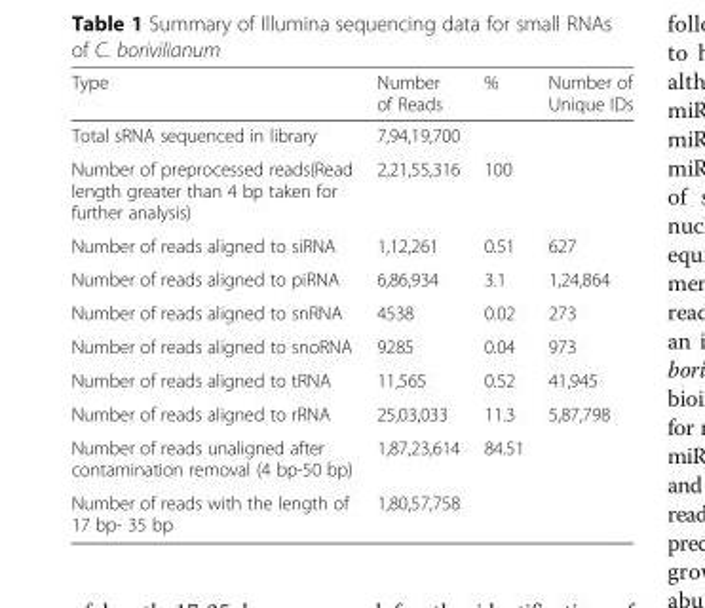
<table><thead><tr><td>Type</td><td>Number of Reads</td><td>%</td><td>Number of Unique IDs</td></tr></thead><tbody><tr><td>Total sRNA sequenced in library</td><td>7,94,19,700</td><td></td><td></td></tr><tr><td>Number of preprocessed reads(Read length greater than 4 bp taken for further analysis)</td><td>2,21,55,316</td><td>100</td><td></td></tr><tr><td>Number of reads aligned to siRNA</td><td>1,12,261</td><td>0.51</td><td>627</td></tr><tr><td>Number of reads aligned to piRNA</td><td>6,86,934</td><td>3.1</td><td>1,24,864</td></tr><tr><td>Number of reads aligned to snRNA</td><td>4538</td><td>0.02</td><td>273</td></tr><tr><td>Number of reads aligned to snoRNA</td><td>9285</td><td>0.04</td><td>973</td></tr><tr><td>Number of reads aligned to tRNA</td><td>11,565</td><td>0.52</td><td>41,945</td></tr><tr><td>Number of reads aligned to rRNA</td><td>25,03,033</td><td>11.3</td><td>5,87,798</td></tr><tr><td>Number of reads unaligned after contamination removal (4 bp-50 bp)</td><td>1,87,23,614</td><td>84.51</td><td></td></tr><tr><td>Number of reads with the length of 17 bp- 35 bp</td><td>1,80,57,758</td><td></td><td></td></tr></tbody></table>